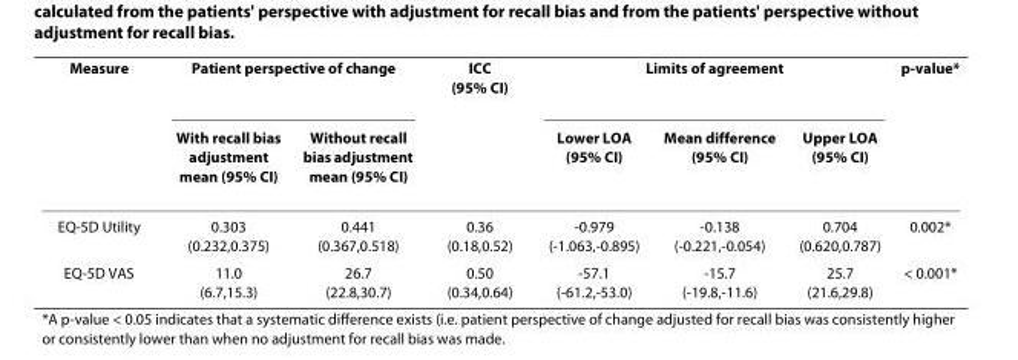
<table><thead><tr><td rowspan="2">Measure</td><td colspan="2">Patient perspective of change</td><td rowspan="2">ICC (95% CI)</td><td colspan="3">Limits of agreement</td><td rowspan="2">p-value*</td></tr><tr><td>With recall bias adjustment mean (95% CI)</td><td>Without recall bias adjustment mean (95% CI)</td><td>Lower LOA (95% CI)</td><td>Mean difference (95% CI)</td><td>Upper LOA (95% CI)</td></tr></thead><tbody><tr><td>EQ-5D Utility</td><td>0.303 (0.232,0.375)</td><td>0.441 (0.367,0.518)</td><td>0.36 (0.18,0.52)</td><td>-0.979 (-1.063,-0.895)</td><td>-0.138 (-0.221,-0.054)</td><td>0.704 (0.620,0.787)</td><td>0.002*</td></tr><tr><td>EQ-5D VAS</td><td>11.0 (6.7,15.3)</td><td>26.7 (22.8,30.7)</td><td>0.50 (0.34,0.64)</td><td>-57.1 (-61.2,-53.0)</td><td>-15.7 (-19.8,-11.6)</td><td>25.7 (21.6,29.8)</td><td>&lt; 0.001*</td></tr></tbody></table>